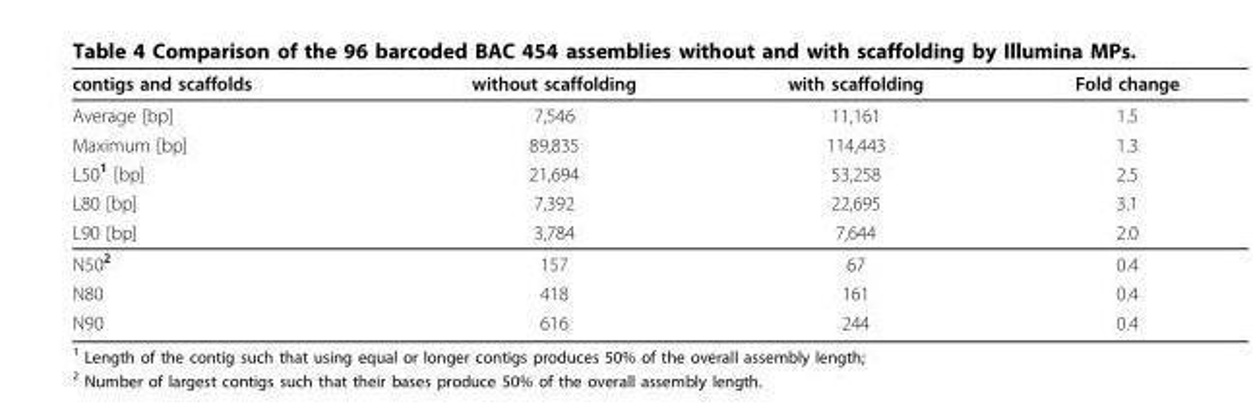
<table><thead><tr><td>contigs and scaffolds</td><td>without scaffolding</td><td>with scaffolding</td><td>Fold change</td></tr></thead><tbody><tr><td>Average [bp]</td><td>7,546</td><td>11,161</td><td>1.5</td></tr><tr><td>Maximum [bp]</td><td>89,835</td><td>114,443</td><td>1.3</td></tr><tr><td>L50<sup>1</sup> [bp]</td><td>21,694</td><td>53,258</td><td>2.5</td></tr><tr><td>L80 [bp]</td><td>7,392</td><td>22,695</td><td>3.1</td></tr><tr><td>L90 [bp]</td><td>3,784</td><td>7,644</td><td>2.0</td></tr><tr><td>N50<sup>2</sup></td><td>157</td><td>67</td><td>0.4</td></tr><tr><td>N80</td><td>418</td><td>161</td><td>0.4</td></tr><tr><td>N90</td><td>616</td><td>244</td><td>0.4</td></tr></tbody></table>